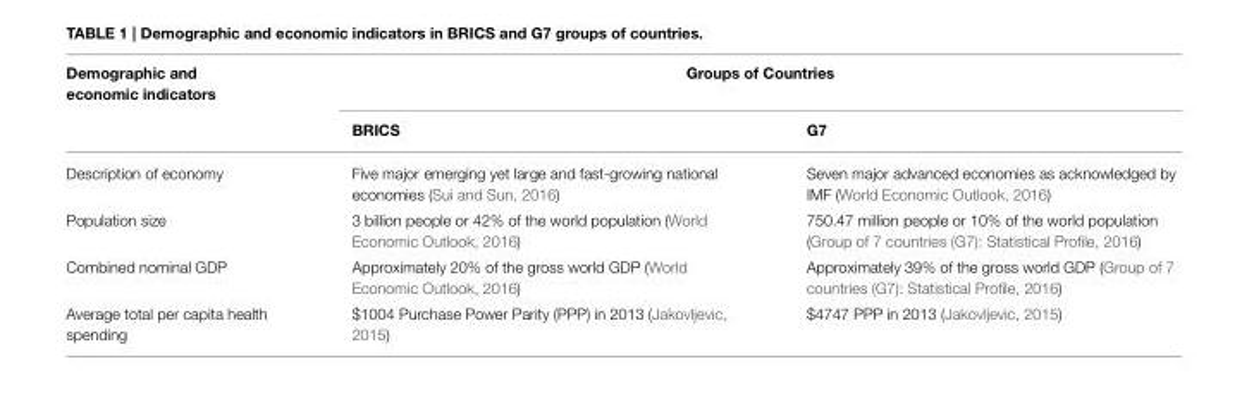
<table><thead><tr><td rowspan="2">Demographic and economic indicators</td><td colspan="2">Groups of Countries</td></tr><tr><td>BRICS</td><td>G7</td></tr></thead><tbody><tr><td>Description of economy</td><td>Five major emerging yet large and fast-growing national economies (Sui and Sun, 2016)</td><td>Seven major advanced economies as acknowledged by IMF (World Economic Outlook, 2016)</td></tr><tr><td>Population size</td><td>3 billion people or 42% of the world population (World Economic Outlook, 2016)</td><td>750.47 million people or 10% of the world population (Group of 7 countries (G7): Statistical Profile, 2016)</td></tr><tr><td>Combined nominal GDP</td><td>Approximately 20% of the gross world GDP (World Economic Outlook, 2016)</td><td>Approximately 39% of the gross world GDP (Group of 7 countries (G7): Statistical Profile, 2016)</td></tr><tr><td>Average total per capita health spending</td><td>$1004 Purchase Power Parity (PPP) in 2013 (Jakovljevic, 2015)</td><td>$4747 PPP in 2013 (Jakovljevic, 2015)</td></tr></tbody></table>